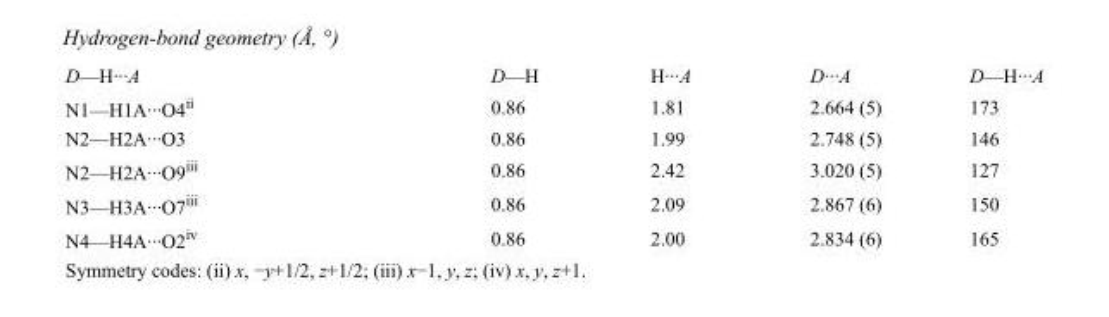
<table><tbody><tr><td>D—H···A</td><td>D—H</td><td>H···A</td><td>D···A</td><td>D—H···A</td></tr><tr><td>N1—H1A···O4<sup>ii</sup></td><td>0.86</td><td>1.81</td><td>2.664 (5)</td><td>173</td></tr><tr><td>N2—H2A···O3</td><td>0.86</td><td>1.99</td><td>2.748 (5)</td><td>146</td></tr><tr><td>N2—H2A···O9<sup>iii</sup></td><td>0.86</td><td>2.42</td><td>3.020 (5)</td><td>127</td></tr><tr><td>N3—H3A···O7<sup>iii</sup></td><td>0.86</td><td>2.09</td><td>2.867 (6)</td><td>150</td></tr><tr><td>N4—H4A···O2<sup>iv</sup></td><td>0.86</td><td>2.00</td><td>2.834 (6)</td><td>165</td></tr></tbody></table>